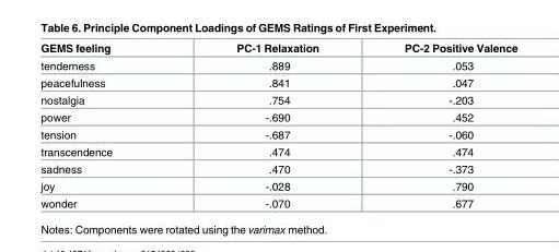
<table><thead><tr><td>GEMS feeling</td><td>PC-1 Relaxation</td><td>PC-2 Positive Valence</td></tr></thead><tbody><tr><td>tenderness</td><td>.889</td><td>.053</td></tr><tr><td>peacefulness</td><td>.841</td><td>.047</td></tr><tr><td>nostalgia</td><td>.754</td><td>-.203</td></tr><tr><td>power</td><td>-.690</td><td>.452</td></tr><tr><td>tension</td><td>-.687</td><td>-.060</td></tr><tr><td>transcendence</td><td>.474</td><td>.474</td></tr><tr><td>sadness</td><td>.470</td><td>-.373</td></tr><tr><td>joy</td><td>-.028</td><td>.790</td></tr><tr><td>wonder</td><td>-.070</td><td>.677</td></tr></tbody></table>